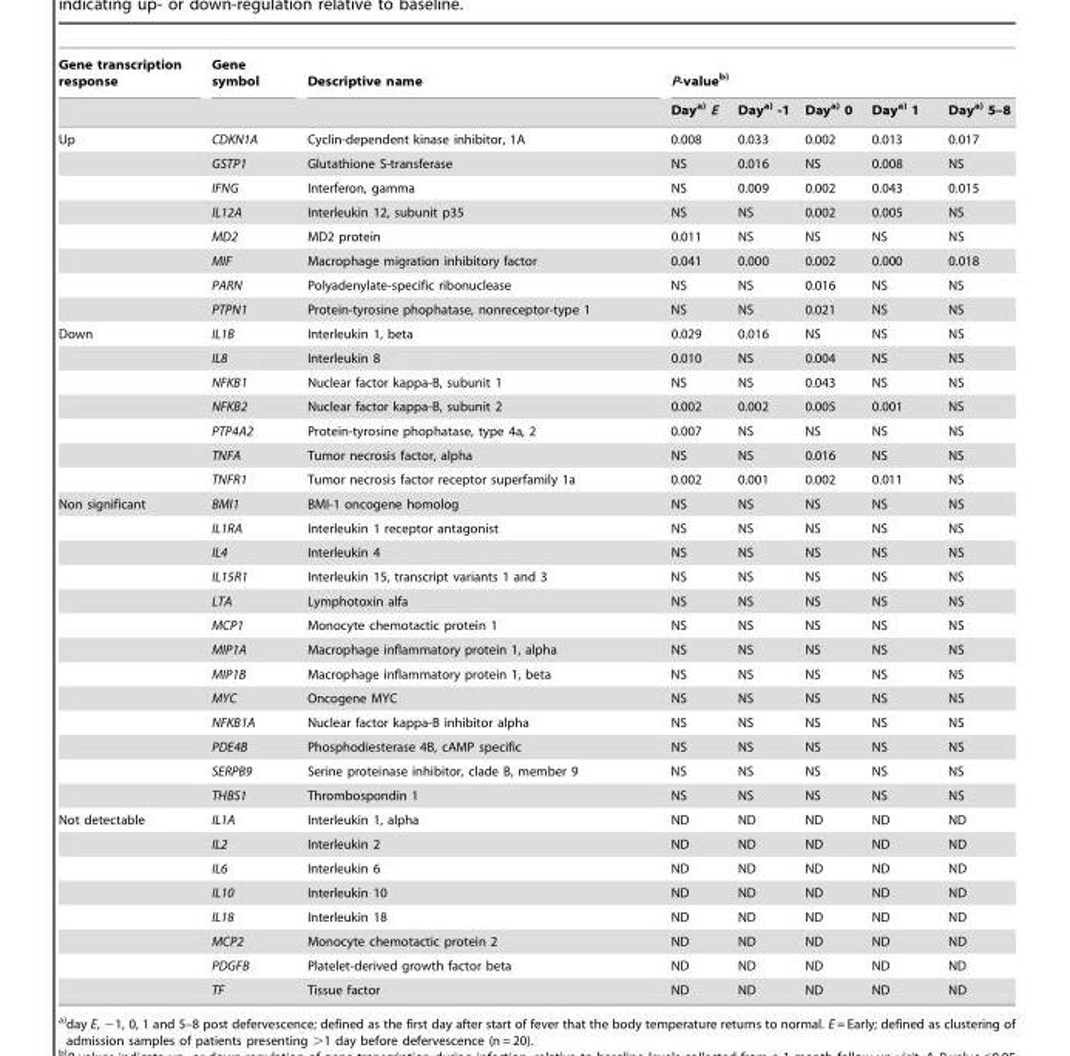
<table><thead><tr><td rowspan="2">Gene transcription response</td><td rowspan="2">Gene symbol</td><td rowspan="2">Descriptive name</td><td colspan="5">P-valueb)</td></tr><tr><td>Daya) E</td><td>Daya) -1</td><td>Daya) 0</td><td>Daya) 1</td><td>Daya) 5–8</td></tr></thead><tbody><tr><td rowspan="8">Up</td><td>CDKN1A</td><td>Cyclin-dependent kinase inhibitor, 1A</td><td>0.008</td><td>0.033</td><td>0.002</td><td>0.013</td><td>0.017</td></tr><tr><td>GSTP1</td><td>Glutathione S-transferase</td><td>NS</td><td>0.016</td><td>NS</td><td>0.008</td><td>NS</td></tr><tr><td>IFNG</td><td>Interferon, gamma</td><td>NS</td><td>0.009</td><td>0.002</td><td>0.043</td><td>0.015</td></tr><tr><td>IL12A</td><td>Interleukin 12, subunit p35</td><td>NS</td><td>NS</td><td>0.002</td><td>0.005</td><td>NS</td></tr><tr><td>MD2</td><td>MD2 protein</td><td>0.011</td><td>NS</td><td>NS</td><td>NS</td><td>NS</td></tr><tr><td>MIF</td><td>Macrophage migration inhibitory factor</td><td>0.041</td><td>0.000</td><td>0.002</td><td>0.000</td><td>0.018</td></tr><tr><td>PARN</td><td>Polyadenylate-specific ribonuclease</td><td>NS</td><td>NS</td><td>0.016</td><td>NS</td><td>NS</td></tr><tr><td>PTPN1</td><td>Protein-tyrosine phophatase, nonreceptor-type 1</td><td>NS</td><td>NS</td><td>0.021</td><td>NS</td><td>NS</td></tr><tr><td rowspan="7">Down</td><td>IL1B</td><td>Interleukin 1, beta</td><td>0.029</td><td>0.016</td><td>NS</td><td>NS</td><td>NS</td></tr><tr><td>IL8</td><td>Interleukin 8</td><td>0.010</td><td>NS</td><td>0.004</td><td>NS</td><td>NS</td></tr><tr><td>NFKB1</td><td>Nuclear factor kappa-B, subunit 1</td><td>NS</td><td>NS</td><td>0.043</td><td>NS</td><td>NS</td></tr><tr><td>NFKB2</td><td>Nuclear factor kappa-B, subunit 2</td><td>0.002</td><td>0.002</td><td>0.005</td><td>0.001</td><td>NS</td></tr><tr><td>PTP4A2</td><td>Protein-tyrosine phophatase, type 4a, 2</td><td>0.007</td><td>NS</td><td>NS</td><td>NS</td><td>NS</td></tr><tr><td>TNFA</td><td>Tumor necrosis factor, alpha</td><td>NS</td><td>NS</td><td>0.016</td><td>NS</td><td>NS</td></tr><tr><td>TNFR1</td><td>Tumor necrosis factor receptor superfamily 1a</td><td>0.002</td><td>0.001</td><td>0.002</td><td>0.011</td><td>NS</td></tr><tr><td rowspan="13">Non significant</td><td>BMI1</td><td>BMI-1 oncogene homolog</td><td>NS</td><td>NS</td><td>NS</td><td>NS</td><td>NS</td></tr><tr><td>IL1RA</td><td>Interleukin 1 receptor antagonist</td><td>NS</td><td>NS</td><td>NS</td><td>NS</td><td>NS</td></tr><tr><td>IL4</td><td>Interleukin 4</td><td>NS</td><td>NS</td><td>NS</td><td>NS</td><td>NS</td></tr><tr><td>IL15R1</td><td>Interleukin 15, transcript variants 1 and 3</td><td>NS</td><td>NS</td><td>NS</td><td>NS</td><td>NS</td></tr><tr><td>LTA</td><td>Lymphotoxin alfa</td><td>NS</td><td>NS</td><td>NS</td><td>NS</td><td>NS</td></tr><tr><td>MCP1</td><td>Monocyte chemotactic protein 1</td><td>NS</td><td>NS</td><td>NS</td><td>NS</td><td>NS</td></tr><tr><td>MIP1A</td><td>Macrophage inflammatory protein 1, alpha</td><td>NS</td><td>NS</td><td>NS</td><td>NS</td><td>NS</td></tr><tr><td>MIP1B</td><td>Macrophage inflammatory protein 1, beta</td><td>NS</td><td>NS</td><td>NS</td><td>NS</td><td>NS</td></tr><tr><td>MYC</td><td>Oncogene MYC</td><td>NS</td><td>NS</td><td>NS</td><td>NS</td><td>NS</td></tr><tr><td>NFKB1A</td><td>Nuclear factor kappa-B inhibitor alpha</td><td>NS</td><td>NS</td><td>NS</td><td>NS</td><td>NS</td></tr><tr><td>PDE4B</td><td>Phosphodiesterase 4B, cAMP specific</td><td>NS</td><td>NS</td><td>NS</td><td>NS</td><td>NS</td></tr><tr><td>SERPB9</td><td>Serine proteinase inhibitor, clade B, member 9</td><td>NS</td><td>NS</td><td>NS</td><td>NS</td><td>NS</td></tr><tr><td>THBS1</td><td>Thrombospondin 1</td><td>NS</td><td>NS</td><td>NS</td><td>NS</td><td>NS</td></tr><tr><td rowspan="8">Not detectable</td><td>IL1A</td><td>Interleukin 1, alpha</td><td>ND</td><td>ND</td><td>ND</td><td>ND</td><td>ND</td></tr><tr><td>IL2</td><td>Interleukin 2</td><td>ND</td><td>ND</td><td>ND</td><td>ND</td><td>ND</td></tr><tr><td>IL6</td><td>Interleukin 6</td><td>ND</td><td>ND</td><td>ND</td><td>ND</td><td>ND</td></tr><tr><td>IL10</td><td>Interleukin 10</td><td>ND</td><td>ND</td><td>ND</td><td>ND</td><td>ND</td></tr><tr><td>IL18</td><td>Interleukin 18</td><td>ND</td><td>ND</td><td>ND</td><td>ND</td><td>ND</td></tr><tr><td>MCP2</td><td>Monocyte chemotactic protein 2</td><td>ND</td><td>ND</td><td>ND</td><td>ND</td><td>ND</td></tr><tr><td>PDGFB</td><td>Platelet-derived growth factor beta</td><td>ND</td><td>ND</td><td>ND</td><td>ND</td><td>ND</td></tr><tr><td>TF</td><td>Tissue factor</td><td>ND</td><td>ND</td><td>ND</td><td>ND</td><td>ND</td></tr></tbody></table>